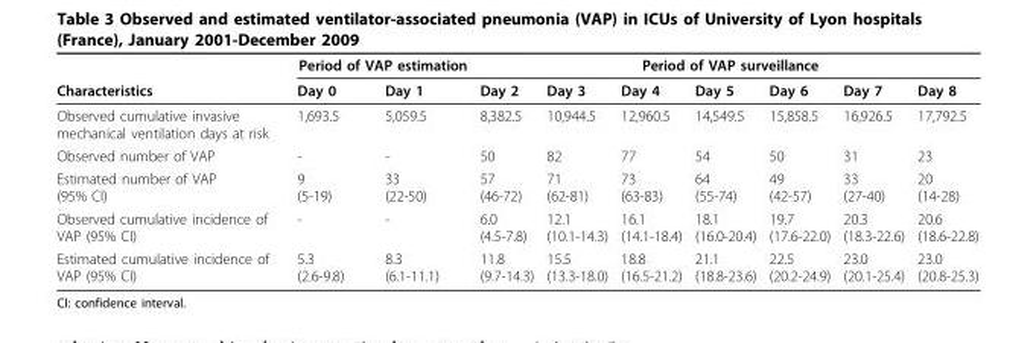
<table><thead><tr><td rowspan="2">Characteristics</td><td colspan="2">Period of VAP estimation</td><td colspan="7">Period of VAP surveillance</td></tr><tr><td>Day 0</td><td>Day 1</td><td>Day 2</td><td>Day 3</td><td>Day 4</td><td>Day 5</td><td>Day 6</td><td>Day 7</td><td>Day 8</td></tr></thead><tbody><tr><td>Observed cumulative invasive mechanical ventilation days at risk</td><td>1,693.5</td><td>5,059.5</td><td>8,382.5</td><td>10,944.5</td><td>12,960.5</td><td>14,549.5</td><td>15,858.5</td><td>16,926.5</td><td>17,792.5</td></tr><tr><td>Observed number of VAP</td><td>-</td><td>-</td><td>50</td><td>82</td><td>77</td><td>54</td><td>50</td><td>31</td><td>23</td></tr><tr><td>Estimated number of VAP (95% CI)</td><td>9 (5-19)</td><td>33 (22-50)</td><td>57 (46-72)</td><td>71 (62-81)</td><td>73 (63-83)</td><td>64 (55-74)</td><td>49 (42-57)</td><td>33 (27-40)</td><td>20 (14-28)</td></tr><tr><td>Observed cumulative incidence of VAP (95% CI)</td><td>-</td><td>-</td><td>6.0 (4.5-7.8)</td><td>12.1 (10.1-14.3)</td><td>16.1 (14.1-18.4)</td><td>18.1 (16.0-20.4)</td><td>19.7 (17.6-22.0)</td><td>20.3 (18.3-22.6)</td><td>20.6 (18.6-22.8)</td></tr><tr><td>Estimated cumulative incidence of VAP (95% CI)</td><td>5.3 (2.6-9.8)</td><td>8.3 (6.1-11.1)</td><td>11.8 (9.7-14.3)</td><td>15.5 (13.3-18.0)</td><td>18.8 (16.5-21.2)</td><td>21.1 (18.8-23.6)</td><td>22.5 (20.2-24.9)</td><td>23.0 (20.1-25.4)</td><td>23.0 (20.8-25.3)</td></tr></tbody></table>